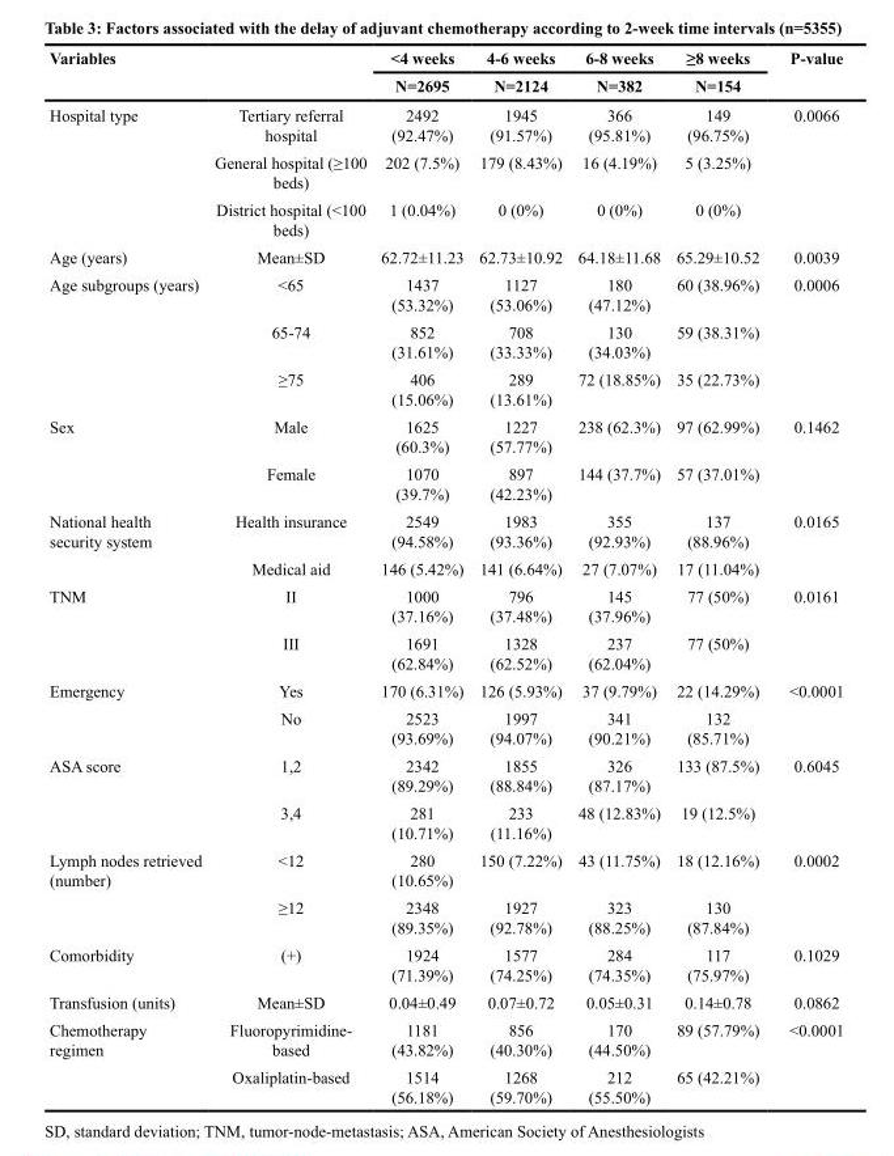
<table><thead><tr><td rowspan="2">Variables</td><td rowspan="2"></td><td rowspan="2">&lt;4 weeks N=2695</td><td rowspan="2">4-6 weeks N=2124</td><td rowspan="2">6-8 weeks N=382</td><td rowspan="2">≥8 weeks N=154</td><td rowspan="2">P-value</td></tr><tr></tr></thead><tbody><tr><td rowspan="3">Hospital type</td><td>Tertiary referral hospital</td><td>2492 (92.47%)</td><td>1945 (91.57%)</td><td>366 (95.81%)</td><td>149 (96.75%)</td><td>0.0066</td></tr><tr><td>General hospital (≥100 beds)</td><td>202 (7.5%)</td><td>179 (8.43%)</td><td>16 (4.19%)</td><td>5 (3.25%)</td><td></td></tr><tr><td>District hospital (&lt;100 beds)</td><td>1 (0.04%)</td><td>0 (0%)</td><td>0 (0%)</td><td>0 (0%)</td><td></td></tr><tr><td>Age (years)</td><td>Mean±SD</td><td>62.72±11.23</td><td>62.73±10.92</td><td>64.18±11.68</td><td>65.29±10.52</td><td>0.0039</td></tr><tr><td rowspan="3">Age subgroups (years)</td><td>&lt;65</td><td>1437 (53.32%)</td><td>1127 (53.06%)</td><td>180 (47.12%)</td><td>60 (38.96%)</td><td>0.0006</td></tr><tr><td>65-74</td><td>852 (31.61%)</td><td>708 (33.33%)</td><td>130 (34.03%)</td><td>59 (38.31%)</td><td></td></tr><tr><td>≥75</td><td>406 (15.06%)</td><td>289 (13.61%)</td><td>72 (18.85%)</td><td>35 (22.73%)</td><td></td></tr><tr><td rowspan="2">Sex</td><td>Male</td><td>1625 (60.3%)</td><td>1227 (57.77%)</td><td>238 (62.3%)</td><td>97 (62.99%)</td><td>0.1462</td></tr><tr><td>Female</td><td>1070 (39.7%)</td><td>897 (42.23%)</td><td>144 (37.7%)</td><td>57 (37.01%)</td><td></td></tr><tr><td rowspan="2">National health security system</td><td>Health insurance</td><td>2549 (94.58%)</td><td>1983 (93.36%)</td><td>355 (92.93%)</td><td>137 (88.96%)</td><td>0.0165</td></tr><tr><td>Medical aid</td><td>146 (5.42%)</td><td>141 (6.64%)</td><td>27 (7.07%)</td><td>17 (11.04%)</td><td></td></tr><tr><td rowspan="2">TNM</td><td>II</td><td>1000 (37.16%)</td><td>796 (37.48%)</td><td>145 (37.96%)</td><td>77 (50%)</td><td>0.0161</td></tr><tr><td>III</td><td>1691 (62.84%)</td><td>1328 (62.52%)</td><td>237 (62.04%)</td><td>77 (50%)</td><td></td></tr><tr><td rowspan="2">Emergency</td><td>Yes</td><td>170 (6.31%)</td><td>126 (5.93%)</td><td>37 (9.79%)</td><td>22 (14.29%)</td><td>&lt;0.0001</td></tr><tr><td>No</td><td>2523 (93.69%)</td><td>1997 (94.07%)</td><td>341 (90.21%)</td><td>132 (85.71%)</td><td></td></tr><tr><td rowspan="2">ASA score</td><td>1,2</td><td>2342 (89.29%)</td><td>1855 (88.84%)</td><td>326 (87.17%)</td><td>133 (87.5%)</td><td>0.6045</td></tr><tr><td>3,4</td><td>281 (10.71%)</td><td>233 (11.16%)</td><td>48 (12.83%)</td><td>19 (12.5%)</td><td></td></tr><tr><td rowspan="2">Lymph nodes retrieved (number)</td><td>&lt;12</td><td>280 (10.65%)</td><td>150 (7.22%)</td><td>43 (11.75%)</td><td>18 (12.16%)</td><td>0.0002</td></tr><tr><td>≥12</td><td>2348 (89.35%)</td><td>1927 (92.78%)</td><td>323 (88.25%)</td><td>130 (87.84%)</td><td></td></tr><tr><td>Comorbidity</td><td>(+)</td><td>1924 (71.39%)</td><td>1577 (74.25%)</td><td>284 (74.35%)</td><td>117 (75.97%)</td><td>0.1029</td></tr><tr><td>Transfusion (units)</td><td>Mean±SD</td><td>0.04±0.49</td><td>0.07±0.72</td><td>0.05±0.31</td><td>0.14±0.78</td><td>0.0862</td></tr><tr><td rowspan="2">Chemotherapy regimen</td><td>Fluoropyrimidine- based</td><td>1181 (43.82%)</td><td>856 (40.30%)</td><td>170 (44.50%)</td><td>89 (57.79%)</td><td>&lt;0.0001</td></tr><tr><td>Oxaliplatin-based</td><td>1514 (56.18%)</td><td>1268 (59.70%)</td><td>212 (55.50%)</td><td>65 (42.21%)</td><td></td></tr></tbody></table>